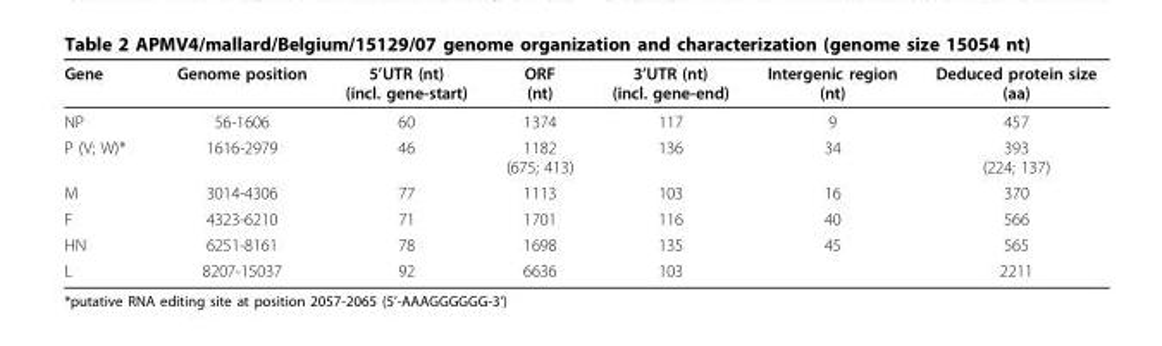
<table><thead><tr><td>Gene</td><td>Genome position</td><td>5’UTR (nt) (incl. gene-start)</td><td>ORF (nt)</td><td>3’UTR (nt) (incl. gene-end)</td><td>Intergenic region (nt)</td><td>Deduced protein size (aa)</td></tr></thead><tbody><tr><td>NP</td><td>56-1606</td><td>60</td><td>1374</td><td>117</td><td>9</td><td>457</td></tr><tr><td>P (V; W)*</td><td>1616-2979</td><td>46</td><td>1182 (675; 413)</td><td>136</td><td>34</td><td>393 (224; 137)</td></tr><tr><td>M</td><td>3014-4306</td><td>77</td><td>1113</td><td>103</td><td>16</td><td>370</td></tr><tr><td>F</td><td>4323-6210</td><td>71</td><td>1701</td><td>116</td><td>40</td><td>566</td></tr><tr><td>HN</td><td>6251-8161</td><td>78</td><td>1698</td><td>135</td><td>45</td><td>565</td></tr><tr><td>L</td><td>8207-15037</td><td>92</td><td>6636</td><td>103</td><td></td><td>2211</td></tr></tbody></table>